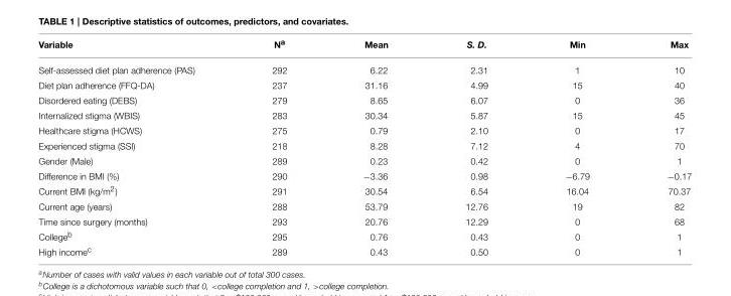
<table><thead><tr><td>Variable</td><td>N<sup>a</sup></td><td>Mean</td><td>S. D.</td><td>Min</td><td>Max</td></tr></thead><tbody><tr><td>Self-assessed diet plan adherence (PAS)</td><td>292</td><td>6.22</td><td>2.31</td><td>1</td><td>10</td></tr><tr><td>Diet plan adherence (FFQ-DA)</td><td>237</td><td>31.16</td><td>4.99</td><td>15</td><td>40</td></tr><tr><td>Disordered eating (DEBS)</td><td>279</td><td>8.65</td><td>6.07</td><td>0</td><td>36</td></tr><tr><td>Internalized stigma (WBIS)</td><td>283</td><td>30.34</td><td>5.87</td><td>15</td><td>45</td></tr><tr><td>Healthcare stigma (HCWS)</td><td>275</td><td>0.79</td><td>2.10</td><td>0</td><td>17</td></tr><tr><td>Experienced stigma (SSI)</td><td>218</td><td>8.28</td><td>7.12</td><td>4</td><td>70</td></tr><tr><td>Gender (Male)</td><td>289</td><td>0.23</td><td>0.42</td><td>0</td><td>1</td></tr><tr><td>Difference in BMI (%)</td><td>290</td><td>−3.36</td><td>0.98</td><td>−6.79</td><td>−0.17</td></tr><tr><td>Current BMI (kg/m<sup>2</sup>)</td><td>291</td><td>30.54</td><td>6.54</td><td>16.04</td><td>70.37</td></tr><tr><td>Current age (years)</td><td>288</td><td>53.79</td><td>12.76</td><td>19</td><td>82</td></tr><tr><td>Time since surgery (months)</td><td>293</td><td>20.76</td><td>12.29</td><td>0</td><td>68</td></tr><tr><td>College<sup>b</sup></td><td>295</td><td>0.76</td><td>0.43</td><td>0</td><td>1</td></tr><tr><td>High income<sup>c</sup></td><td>289</td><td>0.43</td><td>0.50</td><td>0</td><td>1</td></tr></tbody></table>